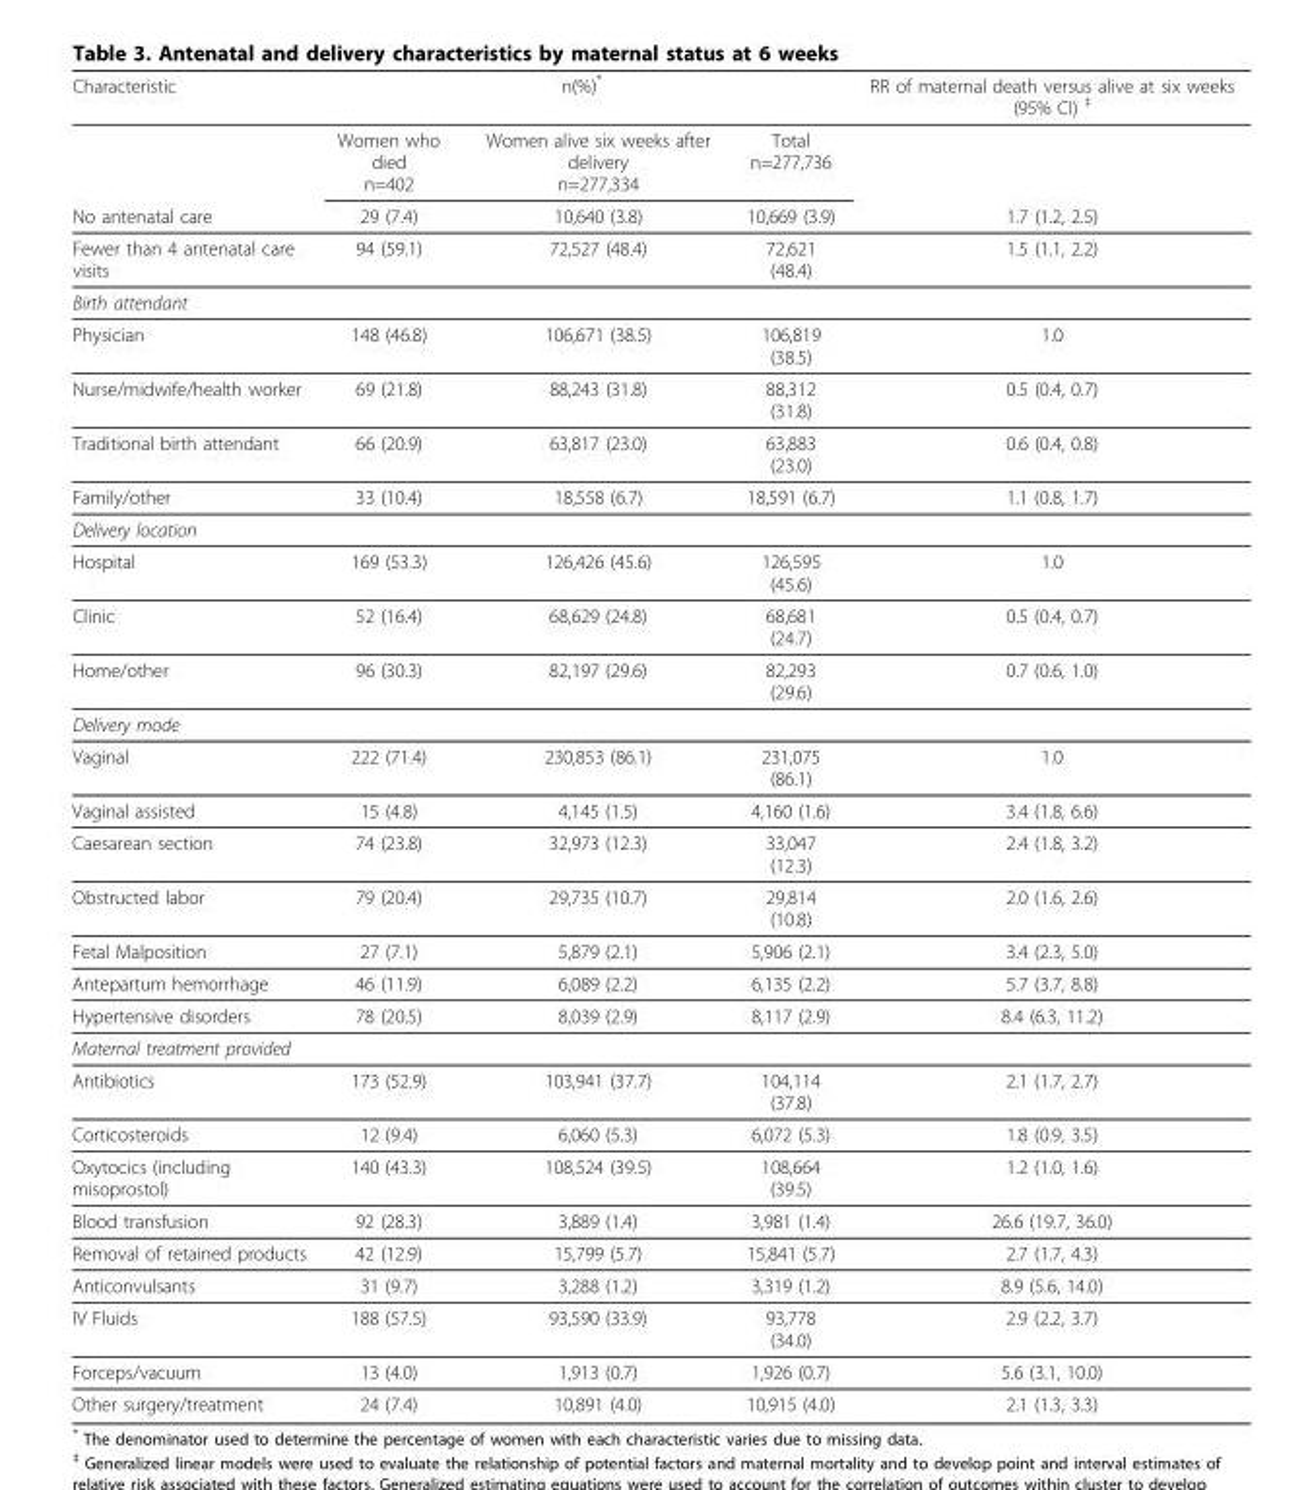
<table><thead><tr><td rowspan="2">Characteristic</td><td colspan="3">n(%)*</td><td rowspan="2">RR of maternal death versus alive at six weeks (95% CI) <sup>‡</sup></td></tr><tr><td>Women who died n=402</td><td>Women alive six weeks after delivery n=277,334</td><td>Total n=277,736</td></tr></thead><tbody><tr><td>No antenatal care</td><td>29 (7.4)</td><td>10,640 (3.8)</td><td>10,669 (3.9)</td><td>1.7 (1.2, 2.5)</td></tr><tr><td>Fewer than 4 antenatal care visits</td><td>94 (59.1)</td><td>72,527 (48.4)</td><td>72,621 (48.4)</td><td>1.5 (1.1, 2.2)</td></tr><tr><td colspan="5">Birth attendant</td></tr><tr><td>Physician</td><td>148 (46.8)</td><td>106,671 (38.5)</td><td>106,819 (38.5)</td><td>1.0</td></tr><tr><td>Nurse/midwife/health worker</td><td>69 (21.8)</td><td>88,243 (31.8)</td><td>88,312 (31.8)</td><td>0.5 (0.4, 0.7)</td></tr><tr><td>Traditional birth attendant</td><td>66 (20.9)</td><td>63,817 (23.0)</td><td>63,883 (23.0)</td><td>0.6 (0.4, 0.8)</td></tr><tr><td>Family/other</td><td>33 (10.4)</td><td>18,558 (6.7)</td><td>18,591 (6.7)</td><td>1.1 (0.8, 1.7)</td></tr><tr><td colspan="5">Delivery location</td></tr><tr><td>Hospital</td><td>169 (53.3)</td><td>126,426 (45.6)</td><td>126,595 (45.6)</td><td>1.0</td></tr><tr><td>Clinic</td><td>52 (16.4)</td><td>68,629 (24.8)</td><td>68,681 (24.7)</td><td>0.5 (0.4, 0.7)</td></tr><tr><td>Home/other</td><td>96 (30.3)</td><td>82,197 (29.6)</td><td>82,293 (29.6)</td><td>0.7 (0.6, 1.0)</td></tr><tr><td colspan="5">Delivery mode</td></tr><tr><td>Vaginal</td><td>222 (71.4)</td><td>230,853 (86.1)</td><td>231,075 (86.1)</td><td>1.0</td></tr><tr><td>Vaginal assisted</td><td>15 (4.8)</td><td>4,145 (1.5)</td><td>4,160 (1.6)</td><td>3.4 (1.8, 6.6)</td></tr><tr><td>Caesarean section</td><td>74 (23.8)</td><td>32,973 (12.3)</td><td>33,047 (12.3)</td><td>2.4 (1.8, 3.2)</td></tr><tr><td>Obstructed labor</td><td>79 (20.4)</td><td>29,735 (10.7)</td><td>29,814 (10.8)</td><td>2.0 (1.6, 2.6)</td></tr><tr><td>Fetal Malposition</td><td>27 (7.1)</td><td>5,879 (2.1)</td><td>5,906 (2.1)</td><td>3.4 (2.3, 5.0)</td></tr><tr><td>Antepartum hemorrhage</td><td>46 (11.9)</td><td>6,089 (2.2)</td><td>6,135 (2.2)</td><td>5.7 (3.7, 8.8)</td></tr><tr><td>Hypertensive disorders</td><td>78 (20.5)</td><td>8,039 (2.9)</td><td>8,117 (2.9)</td><td>8.4 (6.3, 11.2)</td></tr><tr><td colspan="5">Maternal treatment provided</td></tr><tr><td>Antibiotics</td><td>173 (52.9)</td><td>103,941 (37.7)</td><td>104,114 (37.8)</td><td>2.1 (1.7, 2.7)</td></tr><tr><td>Corticosteroids</td><td>12 (9.4)</td><td>6,060 (5.3)</td><td>6,072 (5.3)</td><td>1.8 (0.9, 3.5)</td></tr><tr><td>Oxytocics (including misoprostol)</td><td>140 (43.3)</td><td>108,524 (39.5)</td><td>108,664 (39.5)</td><td>1.2 (1.0, 1.6)</td></tr><tr><td>Blood transfusion</td><td>92 (28.3)</td><td>3,889 (1.4)</td><td>3,981 (1.4)</td><td>26.6 (19.7, 36.0)</td></tr><tr><td>Removal of retained products</td><td>42 (12.9)</td><td>15,799 (5.7)</td><td>15,841 (5.7)</td><td>2.7 (1.7, 4.3)</td></tr><tr><td>Anticonvulsants</td><td>31 (9.7)</td><td>3,288 (1.2)</td><td>3,319 (1.2)</td><td>8.9 (5.6, 14.0)</td></tr><tr><td>IV Fluids</td><td>188 (57.5)</td><td>93,590 (33.9)</td><td>93,778 (34.0)</td><td>2.9 (2.2, 3.7)</td></tr><tr><td>Forceps/vacuum</td><td>13 (4.0)</td><td>1,913 (0.7)</td><td>1,926 (0.7)</td><td>5.6 (3.1, 10.0)</td></tr><tr><td>Other surgery/treatment</td><td>24 (7.4)</td><td>10,891 (4.0)</td><td>10,915 (4.0)</td><td>2.1 (1.3, 3.3)</td></tr></tbody></table>